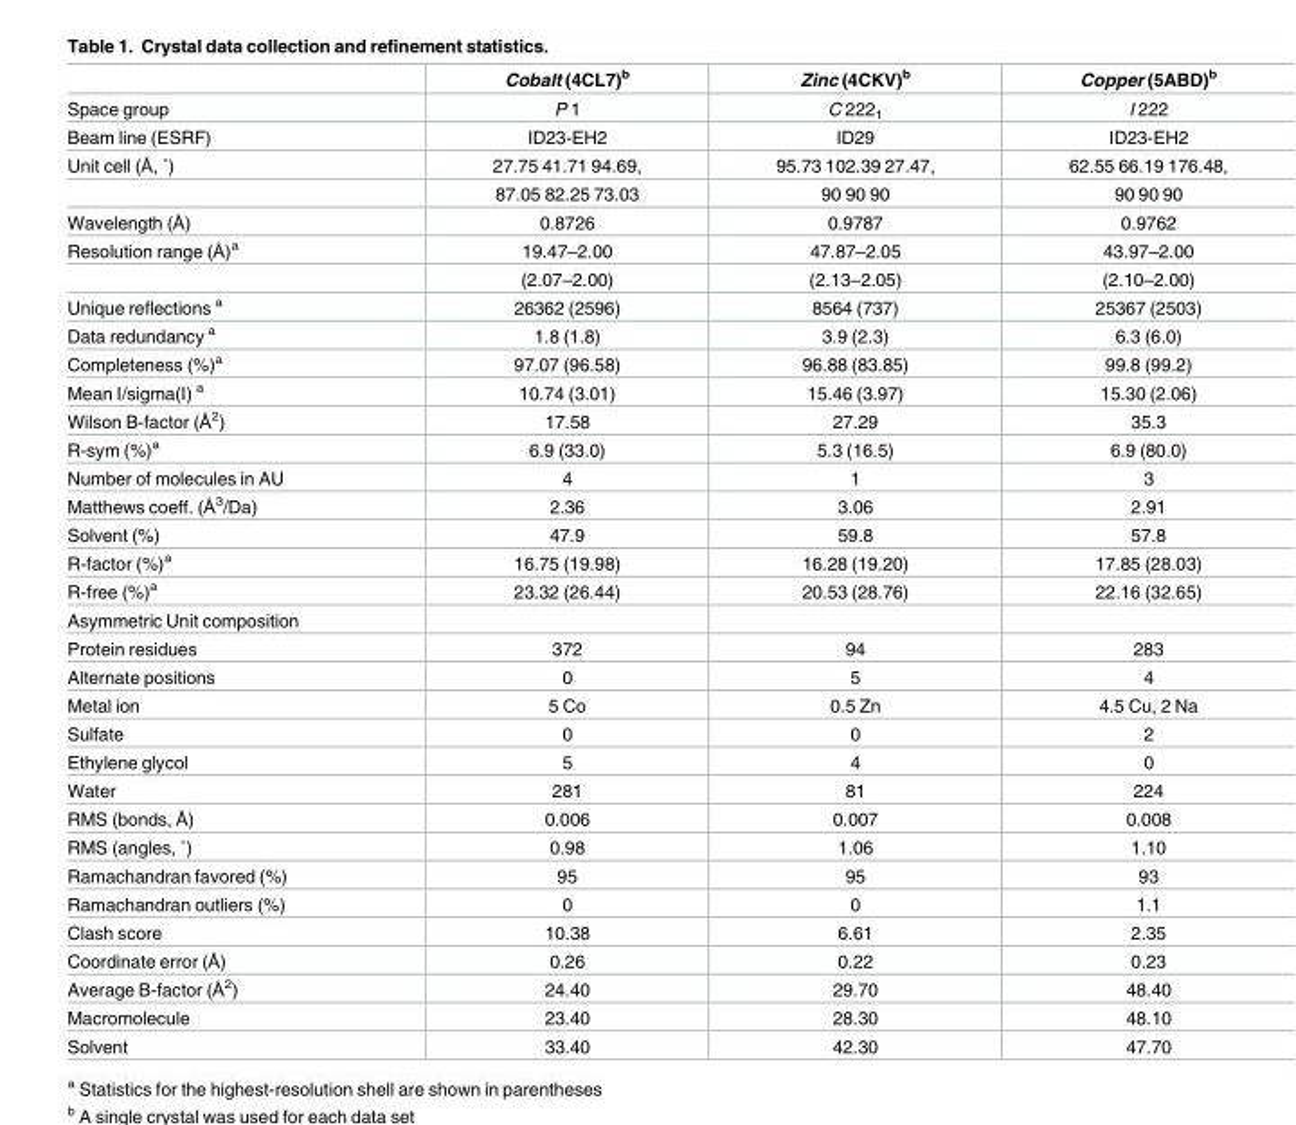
<table><thead><tr><td></td><td>Cobalt (4CL7)<sup>b</sup></td><td>Zinc (4CKV)<sup>b</sup></td><td>Copper (5ABD)<sup>b</sup></td></tr></thead><tbody><tr><td>Space group</td><td>P 1</td><td>C 222<sub>1</sub></td><td>I 222</td></tr><tr><td>Beam line (ESRF)</td><td>ID23-EH2</td><td>ID29</td><td>ID23-EH2</td></tr><tr><td rowspan="2">Unit cell (Å, ˚)</td><td>27.75 41.71 94.69,</td><td>95.73 102.39 27.47,</td><td>62.55 66.19 176.48,</td></tr><tr><td>87.05 82.25 73.03</td><td>90 90 90</td><td>90 90 90</td></tr><tr><td>Wavelength (Å)</td><td>0.8726</td><td>0.9787</td><td>0.9762</td></tr><tr><td rowspan="2">Resolution range (Å)<sup>a</sup></td><td>19.47–2.00</td><td>47.87–2.05</td><td>43.97–2.00</td></tr><tr><td>(2.07–2.00)</td><td>(2.13–2.05)</td><td>(2.10–2.00)</td></tr><tr><td>Unique reflections <sup>a</sup></td><td>26362 (2596)</td><td>8564 (737)</td><td>25367 (2503)</td></tr><tr><td>Data redundancy <sup>a</sup></td><td>1.8 (1.8)</td><td>3.9 (2.3)</td><td>6.3 (6.0)</td></tr><tr><td>Completeness (%)<sup>a</sup></td><td>97.07 (96.58)</td><td>96.88 (83.85)</td><td>99.8 (99.2)</td></tr><tr><td>Mean I/sigma(I) <sup>a</sup></td><td>10.74 (3.01)</td><td>15.46 (3.97)</td><td>15.30 (2.06)</td></tr><tr><td>Wilson B-factor (Å<sup>2</sup>)</td><td>17.58</td><td>27.29</td><td>35.3</td></tr><tr><td>R-sym (%)<sup>a</sup></td><td>6.9 (33.0)</td><td>5.3 (16.5)</td><td>6.9 (80.0)</td></tr><tr><td>Number of molecules in AU</td><td>4</td><td>1</td><td>3</td></tr><tr><td>Matthews coeff. (Å<sup>3</sup>/Da)</td><td>2.36</td><td>3.06</td><td>2.91</td></tr><tr><td>Solvent (%)</td><td>47.9</td><td>59.8</td><td>57.8</td></tr><tr><td>R-factor (%)<sup>a</sup></td><td>16.75 (19.98)</td><td>16.28 (19.20)</td><td>17.85 (28.03)</td></tr><tr><td>R-free (%)<sup>a</sup></td><td>23.32 (26.44)</td><td>20.53 (28.76)</td><td>22.16 (32.65)</td></tr><tr><td colspan="4">Asymmetric Unit composition</td></tr><tr><td>Protein residues</td><td>372</td><td>94</td><td>283</td></tr><tr><td>Alternate positions</td><td>0</td><td>5</td><td>4</td></tr><tr><td>Metal ion</td><td>5 Co</td><td>0.5 Zn</td><td>4.5 Cu, 2 Na</td></tr><tr><td>Sulfate</td><td>0</td><td>0</td><td>2</td></tr><tr><td>Ethylene glycol</td><td>5</td><td>4</td><td>0</td></tr><tr><td>Water</td><td>281</td><td>81</td><td>224</td></tr><tr><td>RMS (bonds, Å)</td><td>0.006</td><td>0.007</td><td>0.008</td></tr><tr><td>RMS (angles, ˚)</td><td>0.98</td><td>1.06</td><td>1.10</td></tr><tr><td>Ramachandran favored (%)</td><td>95</td><td>95</td><td>93</td></tr><tr><td>Ramachandran outliers (%)</td><td>0</td><td>0</td><td>1.1</td></tr><tr><td>Clash score</td><td>10.38</td><td>6.61</td><td>2.35</td></tr><tr><td>Coordinate error (Å)</td><td>0.26</td><td>0.22</td><td>0.23</td></tr><tr><td>Average B-factor (Å<sup>2</sup>)</td><td>24.40</td><td>29.70</td><td>48.40</td></tr><tr><td>Macromolecule</td><td>23.40</td><td>28.30</td><td>48.10</td></tr><tr><td>Solvent</td><td>33.40</td><td>42.30</td><td>47.70</td></tr></tbody></table>